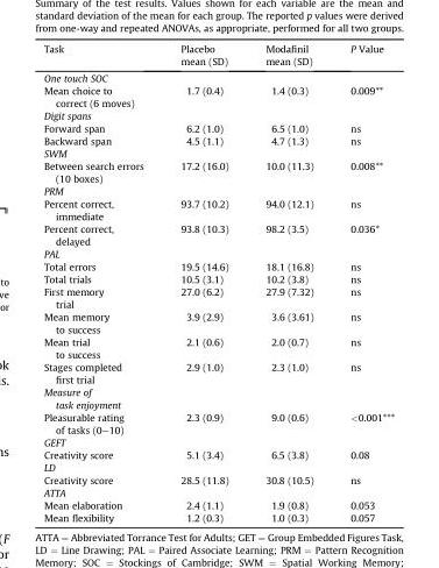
<table><thead><tr><td>Task</td><td>Placebo mean (SD)</td><td>Modafinil mean (SD)</td><td>P Value</td></tr></thead><tbody><tr><td colspan="4">One touch SOC</td></tr><tr><td>Mean choice to correct (6 moves)</td><td>1.7 (0.4)</td><td>1.4 (0.3)</td><td>0.009**</td></tr><tr><td colspan="4">Digit spans</td></tr><tr><td>Forward span</td><td>6.2 (1.0)</td><td>6.5 (1.0)</td><td>ns</td></tr><tr><td>Backward span</td><td>4.5 (1.1)</td><td>4.7 (1.3)</td><td>ns</td></tr><tr><td colspan="4">SWM</td></tr><tr><td>Between search errors (10 boxes)</td><td>17.2 (16.0)</td><td>10.0 (11.3)</td><td>0.008**</td></tr><tr><td colspan="4">PRM</td></tr><tr><td>Percent correct, immediate</td><td>93.7 (10.2)</td><td>94.0 (12.1)</td><td>ns</td></tr><tr><td>Percent correct, delayed</td><td>93.8 (10.3)</td><td>98.2 (3.5)</td><td>0.036*</td></tr><tr><td colspan="4">PAL</td></tr><tr><td>Total errors</td><td>19.5 (14.6)</td><td>18.1 (16.8)</td><td>ns</td></tr><tr><td>Total trials</td><td>10.5 (3.1)</td><td>10.2 (3.8)</td><td>ns</td></tr><tr><td>First memory trial</td><td>27.0 (6.2)</td><td>27.9 (7.32)</td><td>ns</td></tr><tr><td>Mean memory to success</td><td>3.9 (2.9)</td><td>3.6 (3.61)</td><td>ns</td></tr><tr><td>Mean trial to success</td><td>2.1 (0.6)</td><td>2.0 (0.7)</td><td>ns</td></tr><tr><td>Stages completed first trial</td><td>2.9 (1.0)</td><td>2.3 (1.0)</td><td>ns</td></tr><tr><td colspan="4">Measure of task enjoyment</td></tr><tr><td>Pleasurable rating of tasks (0–10)</td><td>2.3 (0.9)</td><td>9.0 (0.6)</td><td>&lt;0.001***</td></tr><tr><td colspan="4">GEFT</td></tr><tr><td>Creativity score</td><td>5.1 (3.4)</td><td>6.5 (3.8)</td><td>0.08</td></tr><tr><td colspan="4">LD</td></tr><tr><td>Creativity score</td><td>28.5 (11.8)</td><td>30.8 (10.5)</td><td>ns</td></tr><tr><td colspan="4">ATTA</td></tr><tr><td>Mean elaboration</td><td>2.4 (1.1)</td><td>1.9 (0.8)</td><td>0.053</td></tr><tr><td>Mean flexibility</td><td>1.2 (0.3)</td><td>1.0 (0.3)</td><td>0.057</td></tr></tbody></table>